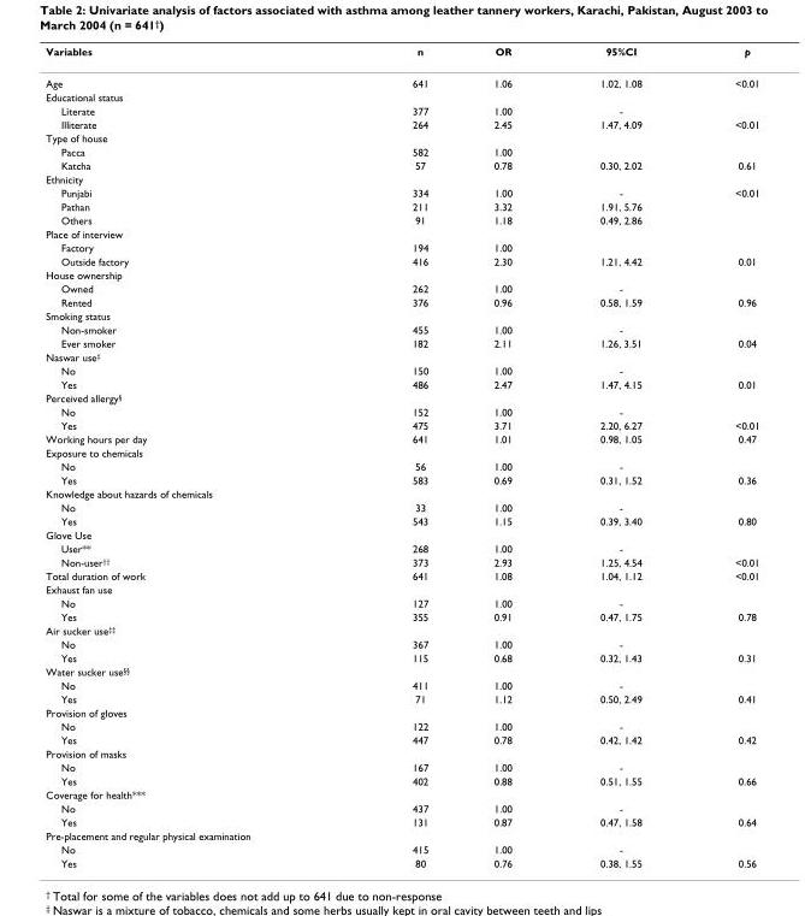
<table><thead><tr><td>Variables</td><td>n</td><td>OR</td><td>95%CI</td><td>p</td></tr></thead><tbody><tr><td>Age</td><td>641</td><td>1.06</td><td>1.02, 1.08</td><td>&lt;0.01</td></tr><tr><td colspan="5">Educational status</td></tr><tr><td>Literate</td><td>377</td><td>1.00</td><td>-</td><td></td></tr><tr><td>Illiterate</td><td>264</td><td>2.45</td><td>1.47, 4.09</td><td>&lt;0.01</td></tr><tr><td colspan="5">Type of house</td></tr><tr><td>Pacca</td><td>582</td><td>1.00</td><td></td><td></td></tr><tr><td>Katcha</td><td>57</td><td>0.78</td><td>0.30, 2.02</td><td>0.61</td></tr><tr><td colspan="5">Ethnicity</td></tr><tr><td>Punjabi</td><td>334</td><td>1.00</td><td>-</td><td>&lt;0.01</td></tr><tr><td>Pathan</td><td>211</td><td>3.32</td><td>1.91, 5.76</td><td></td></tr><tr><td>Others</td><td>91</td><td>1.18</td><td>0.49, 2.86</td><td></td></tr><tr><td colspan="5">Place of interview</td></tr><tr><td>Factory</td><td>194</td><td>1.00</td><td></td><td></td></tr><tr><td>Outside factory</td><td>416</td><td>2.30</td><td>1.21, 4.42</td><td>0.01</td></tr><tr><td colspan="5">House ownership</td></tr><tr><td>Owned</td><td>262</td><td>1.00</td><td>-</td><td></td></tr><tr><td>Rented</td><td>376</td><td>0.96</td><td>0.58, 1.59</td><td>0.96</td></tr><tr><td colspan="5">Smoking status</td></tr><tr><td>Non-smoker</td><td>455</td><td>1.00</td><td>-</td><td></td></tr><tr><td>Ever smoker</td><td>182</td><td>2.11</td><td>1.26, 3.51</td><td>0.04</td></tr><tr><td colspan="5">Naswar use‡</td></tr><tr><td>No</td><td>150</td><td>1.00</td><td>-</td><td></td></tr><tr><td>Yes</td><td>486</td><td>2.47</td><td>1.47, 4.15</td><td>0.01</td></tr><tr><td colspan="5">Perceived allergy§</td></tr><tr><td>No</td><td>152</td><td>1.00</td><td>-</td><td></td></tr><tr><td>Yes</td><td>475</td><td>3.71</td><td>2.20, 6.27</td><td>&lt;0.01</td></tr><tr><td>Working hours per day</td><td>641</td><td>1.01</td><td>0.98, 1.05</td><td>0.47</td></tr><tr><td colspan="5">Exposure to chemicals</td></tr><tr><td>No</td><td>56</td><td>1.00</td><td>-</td><td></td></tr><tr><td>Yes</td><td>583</td><td>0.69</td><td>0.31, 1.52</td><td>0.36</td></tr><tr><td colspan="5">Knowledge about hazards of chemicals</td></tr><tr><td>No</td><td>33</td><td>1.00</td><td>-</td><td></td></tr><tr><td>Yes</td><td>543</td><td>1.15</td><td>0.39, 3.40</td><td>0.80</td></tr><tr><td colspan="5">Glove Use</td></tr><tr><td>User**</td><td>268</td><td>1.00</td><td>-</td><td></td></tr><tr><td>Non-user††</td><td>373</td><td>2.93</td><td>1.25, 4.54</td><td>&lt;0.01</td></tr><tr><td>Total duration of work</td><td>641</td><td>1.08</td><td>1.04, 1.12</td><td>&lt;0.01</td></tr><tr><td colspan="5">Exhaust fan use</td></tr><tr><td>No</td><td>127</td><td>1.00</td><td>-</td><td></td></tr><tr><td>Yes</td><td>355</td><td>0.91</td><td>0.47, 1.75</td><td>0.78</td></tr><tr><td colspan="5">Air sucker use‡‡</td></tr><tr><td>No</td><td>367</td><td>1.00</td><td>-</td><td></td></tr><tr><td>Yes</td><td>115</td><td>0.68</td><td>0.32, 1.43</td><td>0.31</td></tr><tr><td colspan="5">Water sucker use§§</td></tr><tr><td>No</td><td>411</td><td>1.00</td><td>-</td><td></td></tr><tr><td>Yes</td><td>71</td><td>1.12</td><td>0.50, 2.49</td><td>0.41</td></tr><tr><td colspan="5">Provision of gloves</td></tr><tr><td>No</td><td>122</td><td>1.00</td><td>-</td><td></td></tr><tr><td>Yes</td><td>447</td><td>0.78</td><td>0.42, 1.42</td><td>0.42</td></tr><tr><td colspan="5">Provision of masks</td></tr><tr><td>No</td><td>167</td><td>1.00</td><td>-</td><td></td></tr><tr><td>Yes</td><td>402</td><td>0.88</td><td>0.51, 1.55</td><td>0.66</td></tr><tr><td colspan="5">Coverage for health***</td></tr><tr><td>No</td><td>437</td><td>1.00</td><td>-</td><td></td></tr><tr><td>Yes</td><td>131</td><td>0.87</td><td>0.47, 1.58</td><td>0.64</td></tr><tr><td colspan="5">Pre-placement and regular physical examination</td></tr><tr><td>No</td><td>415</td><td>1.00</td><td>-</td><td></td></tr><tr><td>Yes</td><td>80</td><td>0.76</td><td>0.38, 1.55</td><td>0.56</td></tr></tbody></table>